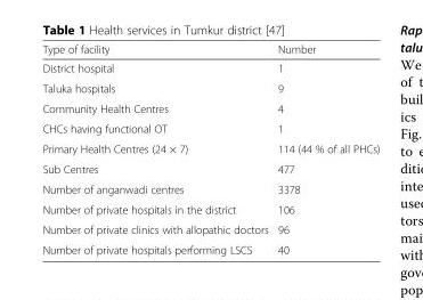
<table><thead><tr><td>Type of facility</td><td>Number</td></tr></thead><tbody><tr><td>District hospital</td><td>1</td></tr><tr><td>Taluka hospitals</td><td>9</td></tr><tr><td>Community Health Centres</td><td>4</td></tr><tr><td>CHCs having functional OT</td><td>1</td></tr><tr><td>Primary Health Centres (24 × 7)</td><td>114 (44 % of all PHCs)</td></tr><tr><td>Sub Centres</td><td>477</td></tr><tr><td>Number of anganwadi centres</td><td>3378</td></tr><tr><td>Number of private hospitals in the district</td><td>106</td></tr><tr><td>Number of private clinics with allopathic doctors</td><td>96</td></tr><tr><td>Number of private hospitals performing LSCS</td><td>40</td></tr></tbody></table>